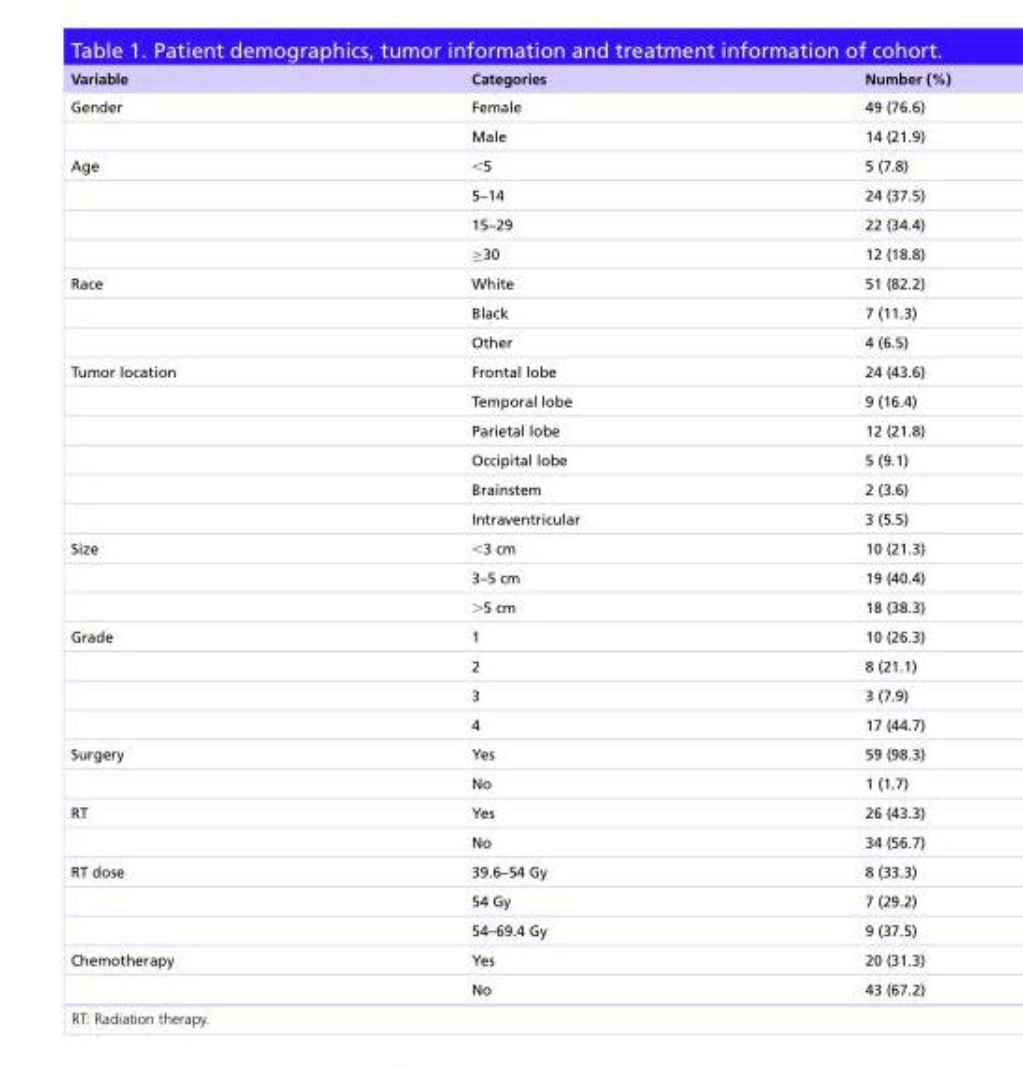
<table><thead><tr><td>Variable</td><td>Categories</td><td>Number (%)</td></tr></thead><tbody><tr><td rowspan="2">Gender</td><td>Female</td><td>49 (76.6)</td></tr><tr><td>Male</td><td>14 (21.9)</td></tr><tr><td rowspan="4">Age</td><td>&lt;5</td><td>5 (7.8)</td></tr><tr><td>5–14</td><td>24 (37.5)</td></tr><tr><td>15–29</td><td>22 (34.4)</td></tr><tr><td>≥30</td><td>12 (18.8)</td></tr><tr><td rowspan="3">Race</td><td>White</td><td>51 (82.2)</td></tr><tr><td>Black</td><td>7 (11.3)</td></tr><tr><td>Other</td><td>4 (6.5)</td></tr><tr><td rowspan="6">Tumor location</td><td>Frontal lobe</td><td>24 (43.6)</td></tr><tr><td>Temporal lobe</td><td>9 (16.4)</td></tr><tr><td>Parietal lobe</td><td>12 (21.8)</td></tr><tr><td>Occipital lobe</td><td>5 (9.1)</td></tr><tr><td>Brainstem</td><td>2 (3.6)</td></tr><tr><td>Intraventricular</td><td>3 (5.5)</td></tr><tr><td rowspan="3">Size</td><td>&lt;3 cm</td><td>10 (21.3)</td></tr><tr><td>3–5 cm</td><td>19 (40.4)</td></tr><tr><td>&gt;5 cm</td><td>18 (38.3)</td></tr><tr><td rowspan="4">Grade</td><td>1</td><td>10 (26.3)</td></tr><tr><td>2</td><td>8 (21.1)</td></tr><tr><td>3</td><td>3 (7.9)</td></tr><tr><td>4</td><td>17 (44.7)</td></tr><tr><td rowspan="2">Surgery</td><td>Yes</td><td>59 (98.3)</td></tr><tr><td>No</td><td>1 (1.7)</td></tr><tr><td rowspan="2">RT</td><td>Yes</td><td>26 (43.3)</td></tr><tr><td>No</td><td>34 (56.7)</td></tr><tr><td rowspan="3">RT dose</td><td>39.6–54 Gy</td><td>8 (33.3)</td></tr><tr><td>54 Gy</td><td>7 (29.2)</td></tr><tr><td>54–69.4 Gy</td><td>9 (37.5)</td></tr><tr><td rowspan="2">Chemotherapy</td><td>Yes</td><td>20 (31.3)</td></tr><tr><td>No</td><td>43 (67.2)</td></tr></tbody></table>